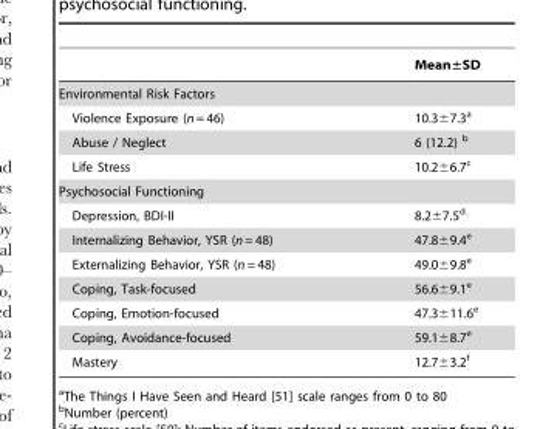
<table><thead><tr><td></td><td>Mean±SD</td></tr></thead><tbody><tr><td colspan="2">Environmental Risk Factors</td></tr><tr><td>Violence Exposure (n = 46)</td><td>10.3±7.3<sup>a</sup></td></tr><tr><td>Abuse / Neglect</td><td>6 (12.2) b</td></tr><tr><td>Life Stress</td><td>10.2±6.7<sup>c</sup></td></tr><tr><td colspan="2">Psychosocial Functioning</td></tr><tr><td>Depression, BDI-II</td><td>8.2±7.5<sup>d</sup></td></tr><tr><td>Internalizing Behavior, YSR (n = 48)</td><td>47.8±9.4<sup>e</sup></td></tr><tr><td>Externalizing Behavior, YSR (n = 48)</td><td>49.0±9.8<sup>e</sup></td></tr><tr><td>Coping, Task-focused</td><td>56.6±9.1<sup>e</sup></td></tr><tr><td>Coping, Emotion-focused</td><td>47.3±11.6<sup>e</sup></td></tr><tr><td>Coping, Avoidance-focused</td><td>59.1±8.7<sup>e</sup></td></tr><tr><td>Mastery</td><td>12.7±3.2<sup>f</sup></td></tr></tbody></table>